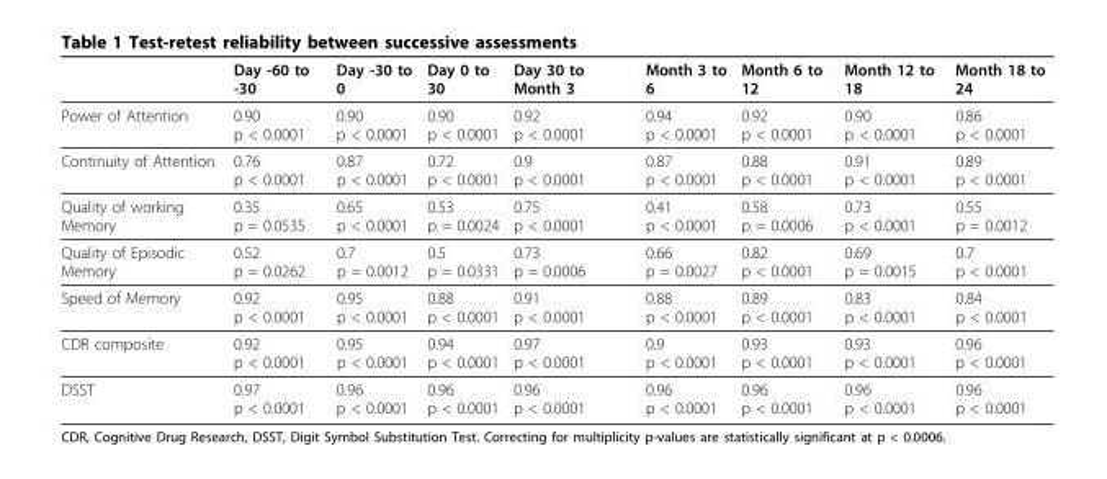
<table><thead><tr><td></td><td>Day -60 to -30</td><td>Day -30 to 0</td><td>Day 0 to 30</td><td>Day 30 to Month 3</td><td>Month 3 to 6</td><td>Month 6 to 12</td><td>Month 12 to 18</td><td>Month 18 to 24</td></tr></thead><tbody><tr><td>Power of Attention</td><td>0.90 p &lt; 0.0001</td><td>0.90 p &lt; 0.0001</td><td>0.90 p &lt; 0.0001</td><td>0.92 p &lt; 0.0001</td><td>0.94 p &lt; 0.0001</td><td>0.92 p &lt; 0.0001</td><td>0.90 p &lt; 0.0001</td><td>0.86 p &lt; 0.0001</td></tr><tr><td>Continuity of Attention</td><td>0.76 p &lt; 0.0001</td><td>0.87 p &lt; 0.0001</td><td>0.72 p &lt; 0.0001</td><td>0.9 p &lt; 0.0001</td><td>0.87 p &lt; 0.0001</td><td>0.88 p &lt; 0.0001</td><td>0.91 p &lt; 0.0001</td><td>0.89 p &lt; 0.0001</td></tr><tr><td>Quality of working Memory</td><td>0.35 p = 0.0535</td><td>0.65 p &lt; 0.0001</td><td>0.53 p = 0.0024</td><td>0.75 p &lt; 0.0001</td><td>0.41 p &lt; 0.0001</td><td>0.58 p = 0.0006</td><td>0.73 p &lt; 0.0001</td><td>0.55 p = 0.0012</td></tr><tr><td>Quality of Episodic Memory</td><td>0.52 p = 0.0262</td><td>0.7 p = 0.0012</td><td>0.5 p = 0.0331</td><td>0.73 p = 0.0006</td><td>0.66 p = 0.0027</td><td>0.82 p &lt; 0.0001</td><td>0.69 p = 0.0015</td><td>0.7 p &lt; 0.0001</td></tr><tr><td>Speed of Memory</td><td>0.92 p &lt; 0.0001</td><td>0.95 p &lt; 0.0001</td><td>0.88 p &lt; 0.0001</td><td>0.91 p &lt; 0.0001</td><td>0.88 p &lt; 0.0001</td><td>0.89 p &lt; 0.0001</td><td>0.83 p &lt; 0.0001</td><td>0.84 p &lt; 0.0001</td></tr><tr><td>CDR composite</td><td>0.92 p &lt; 0.0001</td><td>0.95 p &lt; 0.0001</td><td>0.94 p &lt; 0.0001</td><td>0.97 p &lt; 0.0001</td><td>0.9 p &lt; 0.0001</td><td>0.93 p &lt; 0.0001</td><td>0.93 p &lt; 0.0001</td><td>0.96 p &lt; 0.0001</td></tr><tr><td>DSST</td><td>0.97 p &lt; 0.0001</td><td>0.96 p &lt; 0.0001</td><td>0.96 p &lt; 0.0001</td><td>0.96 p &lt; 0.0001</td><td>0.96 p &lt; 0.0001</td><td>0.96 p &lt; 0.0001</td><td>0.96 p &lt; 0.0001</td><td>0.96 p &lt; 0.0001</td></tr></tbody></table>